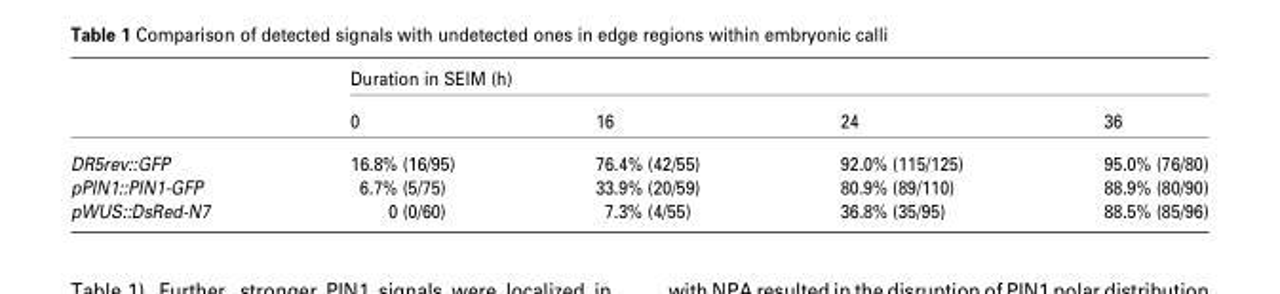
<table><thead><tr><td rowspan="2"></td><td colspan="4">Duration in SEIM (h)</td></tr><tr><td>0</td><td>16</td><td>24</td><td>36</td></tr></thead><tbody><tr><td>DR5rev::GFP</td><td>16.8% (16/95)</td><td>76.4% (42/55)</td><td>92.0% (115/125)</td><td>95.0% (76/80)</td></tr><tr><td>pPIN1::PIN1-GFP</td><td>6.7% (5/75)</td><td>33.9% (20/59)</td><td>80.9% (89/110)</td><td>88.9% (80/90)</td></tr><tr><td>pWUS::DsRed-N7</td><td>0 (0/60)</td><td>7.3% (4/55)</td><td>36.8% (35/95)</td><td>88.5% (85/96)</td></tr></tbody></table>